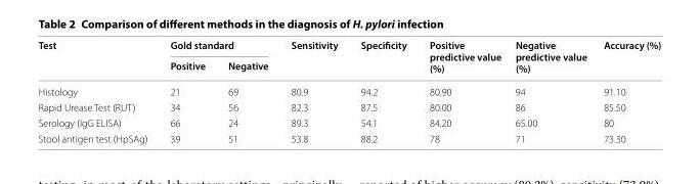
<table><thead><tr><td rowspan="2">Test</td><td colspan="2">Gold standard</td><td rowspan="2">Sensitivity</td><td rowspan="2">Specificity</td><td rowspan="2">Positive predictive value (%)</td><td rowspan="2">Negative predictive value (%)</td><td rowspan="2">Accuracy (%)</td></tr><tr><td>Positive</td><td>Negative</td></tr></thead><tbody><tr><td>Histology</td><td>21</td><td>69</td><td>80.9</td><td>94.2</td><td>80.90</td><td>94</td><td>91.10</td></tr><tr><td>Rapid Urease Test (RUT)</td><td>34</td><td>56</td><td>82.3</td><td>87.5</td><td>80.00</td><td>86</td><td>85.50</td></tr><tr><td>Serology (IgG ELISA)</td><td>66</td><td>24</td><td>89.3</td><td>54.1</td><td>84.20</td><td>65.00</td><td>80</td></tr><tr><td>Stool antigen test (HpSAg)</td><td>39</td><td>51</td><td>53.8</td><td>88.2</td><td>78</td><td>71</td><td>73.30</td></tr></tbody></table>